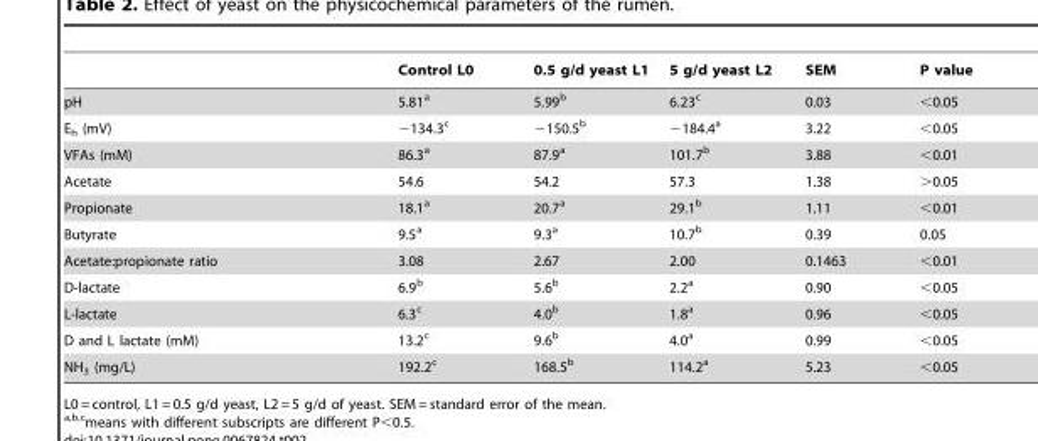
<table><thead><tr><td></td><td>Control L0</td><td>0.5 g/d yeast L1</td><td>5 g/d yeast L2</td><td>SEM</td><td>P value</td></tr></thead><tbody><tr><td>pH</td><td>5.81<sup>a</sup></td><td>5.99<sup>b</sup></td><td>6.23<sup>c</sup></td><td>0.03</td><td>&lt;0.05</td></tr><tr><td>E<sub>h</sub> (mV)</td><td>−134.3<sup>c</sup></td><td>−150.5<sup>b</sup></td><td>−184.4<sup>a</sup></td><td>3.22</td><td>&lt;0.05</td></tr><tr><td>VFAs (mM)</td><td>86.3<sup>a</sup></td><td>87.9<sup>a</sup></td><td>101.7<sup>b</sup></td><td>3.88</td><td>&lt;0.01</td></tr><tr><td>Acetate</td><td>54.6</td><td>54.2</td><td>57.3</td><td>1.38</td><td>&gt;0.05</td></tr><tr><td>Propionate</td><td>18.1<sup>a</sup></td><td>20.7<sup>a</sup></td><td>29.1<sup>b</sup></td><td>1.11</td><td>&lt;0.01</td></tr><tr><td>Butyrate</td><td>9.5<sup>a</sup></td><td>9.3<sup>a</sup></td><td>10.7<sup>b</sup></td><td>0.39</td><td>0.05</td></tr><tr><td>Acetate:propionate ratio</td><td>3.08</td><td>2.67</td><td>2.00</td><td>0.1463</td><td>&lt;0.01</td></tr><tr><td>D-lactate</td><td>6.9<sup>b</sup></td><td>5.6<sup>b</sup></td><td>2.2<sup>a</sup></td><td>0.90</td><td>&lt;0.05</td></tr><tr><td>L-lactate</td><td>6.3<sup>c</sup></td><td>4.0<sup>b</sup></td><td>1.8<sup>a</sup></td><td>0.96</td><td>&lt;0.05</td></tr><tr><td>D and L lactate (mM)</td><td>13.2<sup>c</sup></td><td>9.6<sup>b</sup></td><td>4.0<sup>a</sup></td><td>0.99</td><td>&lt;0.05</td></tr><tr><td>NH<sub>3</sub> (mg/L)</td><td>192.2<sup>c</sup></td><td>168.5<sup>b</sup></td><td>114.2<sup>a</sup></td><td>5.23</td><td>&lt;0.05</td></tr></tbody></table>